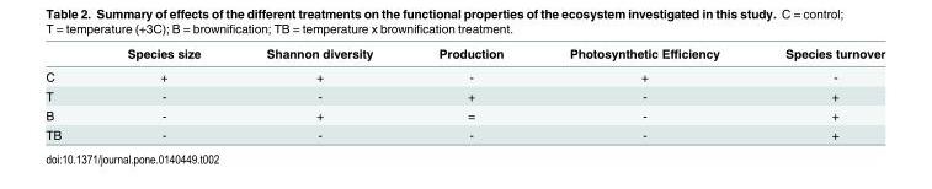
<table><thead><tr><td></td><td>Species size</td><td>Shannon diversity</td><td>Production</td><td>Photosynthetic Efficiency</td><td>Species turnover</td></tr></thead><tbody><tr><td>C</td><td>+</td><td>+</td><td>-</td><td>+</td><td>-</td></tr><tr><td>T</td><td>-</td><td>-</td><td>+</td><td>-</td><td>+</td></tr><tr><td>B</td><td>-</td><td>+</td><td>=</td><td>-</td><td>+</td></tr><tr><td>TB</td><td>-</td><td>-</td><td>-</td><td>-</td><td>+</td></tr></tbody></table>